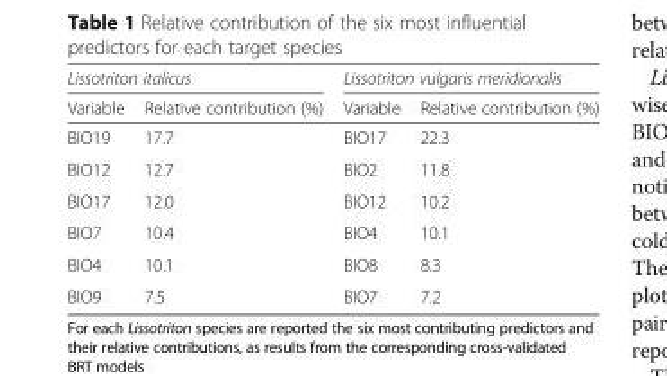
<table><thead><tr><td colspan="2">Lissotriton italicus</td><td colspan="2">Lissotriton vulgaris meridionalis</td></tr><tr><td>Variable</td><td>Relative contribution (%)</td><td>Variable</td><td>Relative contribution (%)</td></tr></thead><tbody><tr><td>BIO19</td><td>17.7</td><td>BIO17</td><td>22.3</td></tr><tr><td>BIO12</td><td>12.7</td><td>BIO2</td><td>11.8</td></tr><tr><td>BIO17</td><td>12.0</td><td>BIO12</td><td>10.2</td></tr><tr><td>BIO7</td><td>10.4</td><td>BIO4</td><td>10.1</td></tr><tr><td>BIO4</td><td>10.1</td><td>BIO8</td><td>8.3</td></tr><tr><td>BIO9</td><td>7.5</td><td>BIO7</td><td>7.2</td></tr></tbody></table>